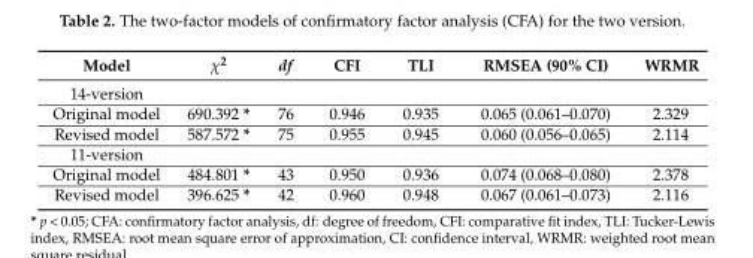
<table><thead><tr><td>Model</td><td>χ<sup>2</sup></td><td>df</td><td>CFI</td><td>TLI</td><td>RMSEA (90% CI)</td><td>WRMR</td></tr></thead><tbody><tr><td colspan="7">14-version</td></tr><tr><td>Original model</td><td>690.392 *</td><td>76</td><td>0.946</td><td>0.935</td><td>0.065 (0.061–0.070)</td><td>2.329</td></tr><tr><td>Revised model</td><td>587.572 *</td><td>75</td><td>0.955</td><td>0.945</td><td>0.060 (0.056–0.065)</td><td>2.114</td></tr><tr><td colspan="7">11-version</td></tr><tr><td>Original model</td><td>484.801 *</td><td>43</td><td>0.950</td><td>0.936</td><td>0.074 (0.068–0.080)</td><td>2.378</td></tr><tr><td>Revised model</td><td>396.625 *</td><td>42</td><td>0.960</td><td>0.948</td><td>0.067 (0.061–0.073)</td><td>2.116</td></tr></tbody></table>